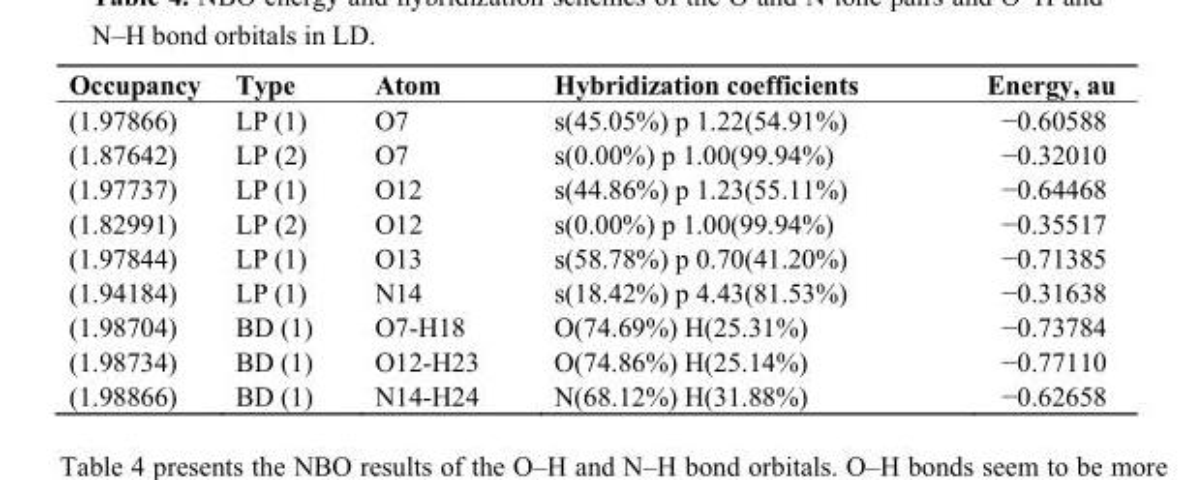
<table><thead><tr><td>Occupancy</td><td>Type</td><td>Atom</td><td>Hybridization coefficients</td><td>Energy, au</td></tr></thead><tbody><tr><td>(1.97866)</td><td>LP (1)</td><td>O7</td><td>s(45.05%) p 1.22(54.91%)</td><td>−0.60588</td></tr><tr><td>(1.87642)</td><td>LP (2)</td><td>O7</td><td>s(0.00%) p 1.00(99.94%)</td><td>−0.32010</td></tr><tr><td>(1.97737)</td><td>LP (1)</td><td>O12</td><td>s(44.86%) p 1.23(55.11%)</td><td>−0.64468</td></tr><tr><td>(1.82991)</td><td>LP (2)</td><td>O12</td><td>s(0.00%) p 1.00(99.94%)</td><td>−0.35517</td></tr><tr><td>(1.97844)</td><td>LP (1)</td><td>O13</td><td>s(58.78%) p 0.70(41.20%)</td><td>−0.71385</td></tr><tr><td>(1.94184)</td><td>LP (1)</td><td>N14</td><td>s(18.42%) p 4.43(81.53%)</td><td>−0.31638</td></tr><tr><td>(1.98704)</td><td>BD (1)</td><td>O7-H18</td><td>O(74.69%) H(25.31%)</td><td>−0.73784</td></tr><tr><td>(1.98734)</td><td>BD (1)</td><td>O12-H23</td><td>O(74.86%) H(25.14%)</td><td>−0.77110</td></tr><tr><td>(1.98866)</td><td>BD (1)</td><td>N14-H24</td><td>N(68.12%) H(31.88%)</td><td>−0.62658</td></tr></tbody></table>